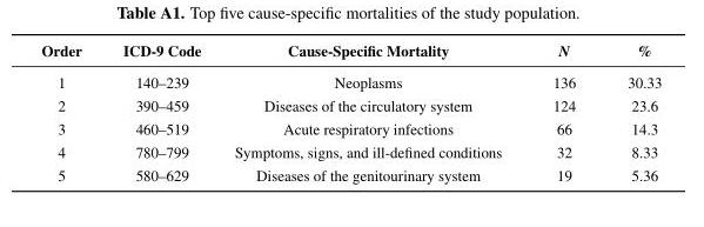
<table><thead><tr><td>Order</td><td>ICD-9 Code</td><td>Cause-Specific Mortality</td><td>N</td><td>%</td></tr></thead><tbody><tr><td>1</td><td>140–239</td><td>Neoplasms</td><td>136</td><td>30.33</td></tr><tr><td>2</td><td>390–459</td><td>Diseases of the circulatory system</td><td>124</td><td>23.6</td></tr><tr><td>3</td><td>460–519</td><td>Acute respiratory infections</td><td>66</td><td>14.3</td></tr><tr><td>4</td><td>780–799</td><td>Symptoms, signs, and ill-defined conditions</td><td>32</td><td>8.33</td></tr><tr><td>5</td><td>580–629</td><td>Diseases of the genitourinary system</td><td>19</td><td>5.36</td></tr></tbody></table>